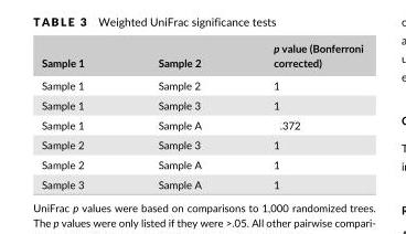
<table><thead><tr><td>Sample 1</td><td>Sample 2</td><td>p value (Bonferroni corrected)</td></tr></thead><tbody><tr><td>Sample 1</td><td>Sample 2</td><td>1</td></tr><tr><td>Sample 1</td><td>Sample 3</td><td>1</td></tr><tr><td>Sample 1</td><td>Sample A</td><td>.372</td></tr><tr><td>Sample 2</td><td>Sample 3</td><td>1</td></tr><tr><td>Sample 2</td><td>Sample A</td><td>1</td></tr><tr><td>Sample 3</td><td>Sample A</td><td>1</td></tr></tbody></table>